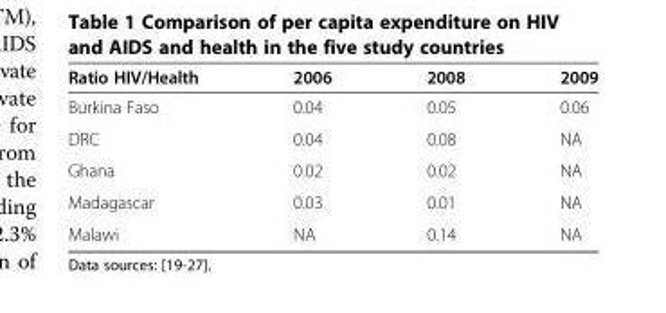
<table><thead><tr><td>Ratio HIV/Health</td><td>2006</td><td>2008</td><td>2009</td></tr></thead><tbody><tr><td>Burkina Faso</td><td>0.04</td><td>0.05</td><td>0.06</td></tr><tr><td>DRC</td><td>0.04</td><td>0.08</td><td>NA</td></tr><tr><td>Ghana</td><td>0.02</td><td>0.02</td><td>NA</td></tr><tr><td>Madagascar</td><td>0.03</td><td>0.01</td><td>NA</td></tr><tr><td>Malawi</td><td>NA</td><td>0.14</td><td>NA</td></tr></tbody></table>